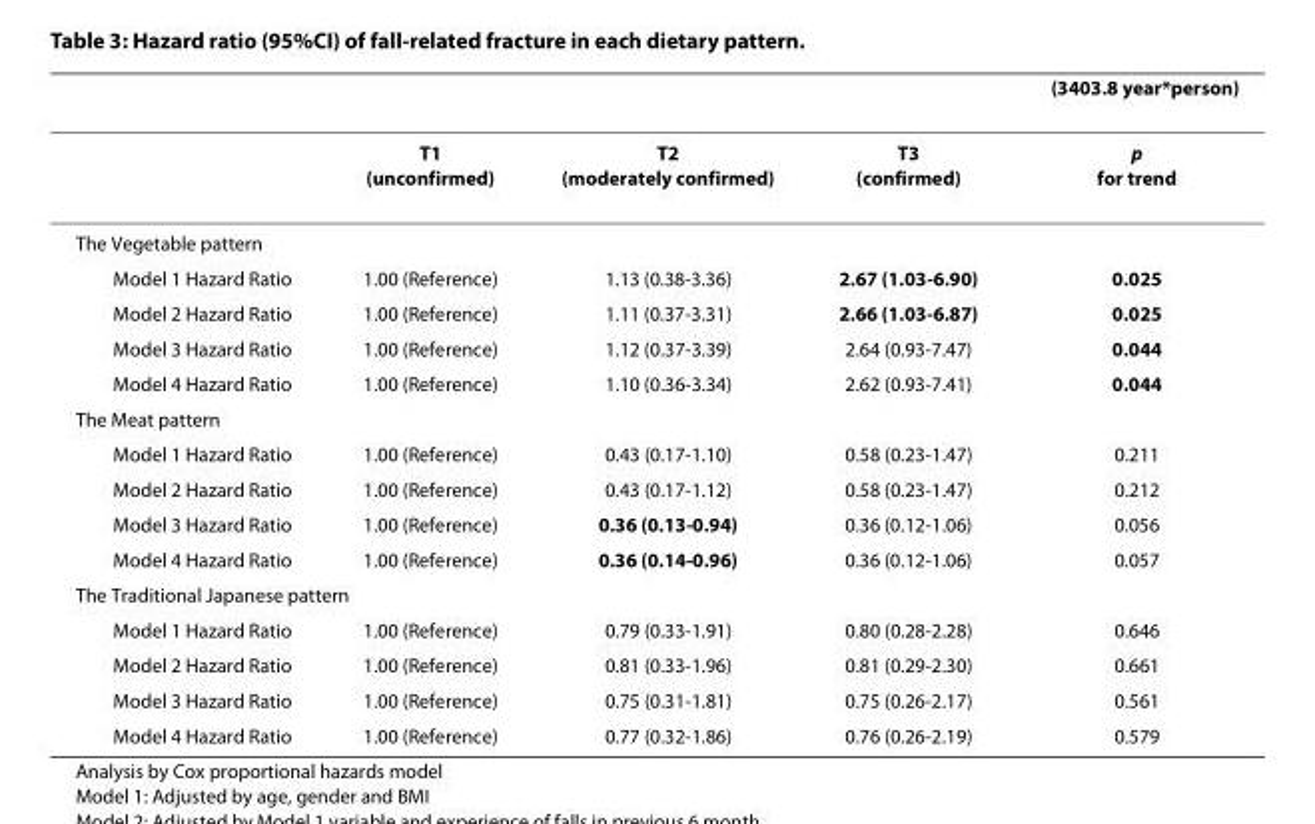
<table><thead><tr><td></td><td></td><td></td><td></td><td>(3403.8 year*person)</td></tr></thead><tbody><tr><td></td><td>T1 (unconfirmed)</td><td>T2 (moderately confirmed)</td><td>T3 (confirmed)</td><td>p for trend</td></tr><tr><td colspan="5">The Vegetable pattern</td></tr><tr><td>Model 1 Hazard Ratio</td><td>1.00 (Reference)</td><td>1.13 (0.38-3.36)</td><td>2.67 (1.03-6.90)</td><td>0.025</td></tr><tr><td>Model 2 Hazard Ratio</td><td>1.00 (Reference)</td><td>1.11 (0.37-3.31)</td><td>2.66 (1.03-6.87)</td><td>0.025</td></tr><tr><td>Model 3 Hazard Ratio</td><td>1.00 (Reference)</td><td>1.12 (0.37-3.39)</td><td>2.64 (0.93-7.47)</td><td>0.044</td></tr><tr><td>Model 4 Hazard Ratio</td><td>1.00 (Reference)</td><td>1.10 (0.36-3.34)</td><td>2.62 (0.93-7.41)</td><td>0.044</td></tr><tr><td colspan="5">The Meat pattern</td></tr><tr><td>Model 1 Hazard Ratio</td><td>1.00 (Reference)</td><td>0.43 (0.17-1.10)</td><td>0.58 (0.23-1.47)</td><td>0.211</td></tr><tr><td>Model 2 Hazard Ratio</td><td>1.00 (Reference)</td><td>0.43 (0.17-1.12)</td><td>0.58 (0.23-1.47)</td><td>0.212</td></tr><tr><td>Model 3 Hazard Ratio</td><td>1.00 (Reference)</td><td>0.36 (0.13-0.94)</td><td>0.36 (0.12-1.06)</td><td>0.056</td></tr><tr><td>Model 4 Hazard Ratio</td><td>1.00 (Reference)</td><td>0.36 (0.14-0.96)</td><td>0.36 (0.12-1.06)</td><td>0.057</td></tr><tr><td colspan="5">The Traditional Japanese pattern</td></tr><tr><td>Model 1 Hazard Ratio</td><td>1.00 (Reference)</td><td>0.79 (0.33-1.91)</td><td>0.80 (0.28-2.28)</td><td>0.646</td></tr><tr><td>Model 2 Hazard Ratio</td><td>1.00 (Reference)</td><td>0.81 (0.33-1.96)</td><td>0.81 (0.29-2.30)</td><td>0.661</td></tr><tr><td>Model 3 Hazard Ratio</td><td>1.00 (Reference)</td><td>0.75 (0.31-1.81)</td><td>0.75 (0.26-2.17)</td><td>0.561</td></tr><tr><td>Model 4 Hazard Ratio</td><td>1.00 (Reference)</td><td>0.77 (0.32-1.86)</td><td>0.76 (0.26-2.19)</td><td>0.579</td></tr></tbody></table>